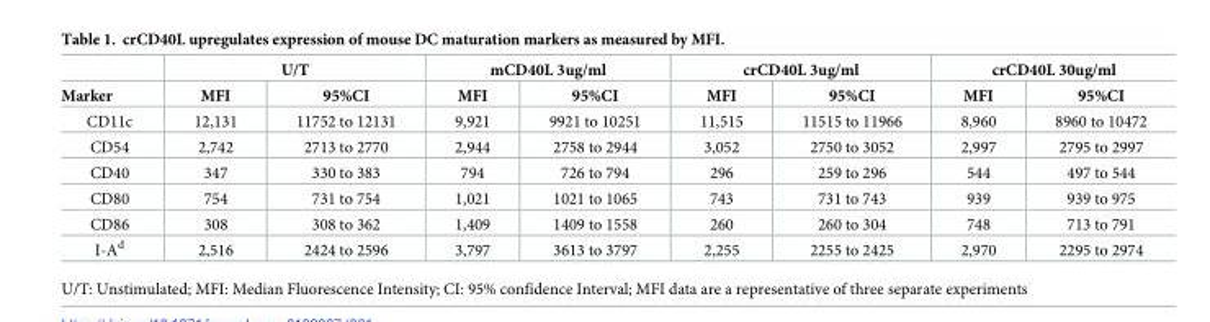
<table><thead><tr><td rowspan="2">Marker</td><td colspan="2">U/T</td><td colspan="2">mCD40L 3ug/ml</td><td colspan="2">crCD40L 3ug/ml</td><td colspan="2">crCD40L 30ug/ml</td></tr><tr><td>MFI</td><td>95%CI</td><td>MFI</td><td>95%CI</td><td>MFI</td><td>95%CI</td><td>MFI</td><td>95%CI</td></tr></thead><tbody><tr><td>CD11c</td><td>12,131</td><td>11752 to 12131</td><td>9,921</td><td>9921 to 10251</td><td>11,515</td><td>11515 to 11966</td><td>8,960</td><td>8960 to 10472</td></tr><tr><td>CD54</td><td>2,742</td><td>2713 to 2770</td><td>2,944</td><td>2758 to 2944</td><td>3,052</td><td>2750 to 3052</td><td>2,997</td><td>2795 to 2997</td></tr><tr><td>CD40</td><td>347</td><td>330 to 383</td><td>794</td><td>726 to 794</td><td>296</td><td>259 to 296</td><td>544</td><td>497 to 544</td></tr><tr><td>CD80</td><td>754</td><td>731 to 754</td><td>1,021</td><td>1021 to 1065</td><td>743</td><td>731 to 743</td><td>939</td><td>939 to 975</td></tr><tr><td>CD86</td><td>308</td><td>308 to 362</td><td>1,409</td><td>1409 to 1558</td><td>260</td><td>260 to 304</td><td>748</td><td>713 to 791</td></tr><tr><td>I-A<sup>d</sup></td><td>2,516</td><td>2424 to 2596</td><td>3,797</td><td>3613 to 3797</td><td>2,255</td><td>2255 to 2425</td><td>2,970</td><td>2295 to 2974</td></tr></tbody></table>